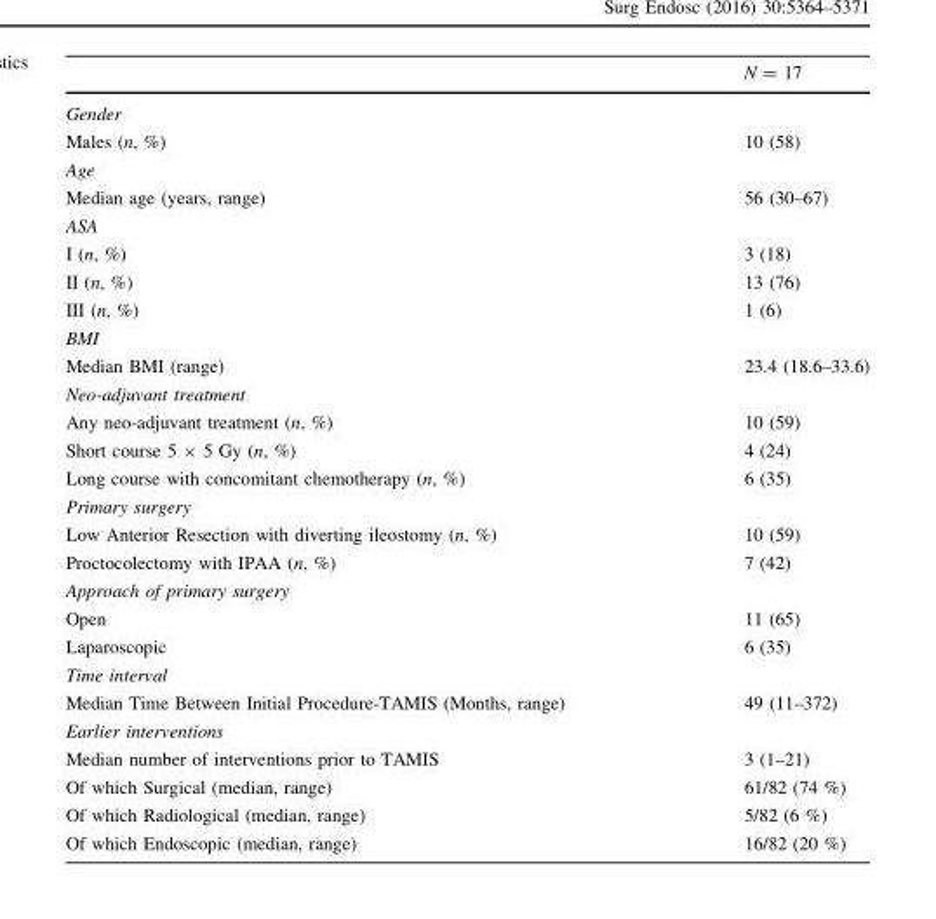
<table><thead><tr><td></td><td>N = 17</td></tr></thead><tbody><tr><td colspan="2">Gender</td></tr><tr><td>Males (n, %)</td><td>10 (58)</td></tr><tr><td colspan="2">Age</td></tr><tr><td>Median age (years, range)</td><td>56 (30–67)</td></tr><tr><td colspan="2">ASA</td></tr><tr><td>I (n, %)</td><td>3 (18)</td></tr><tr><td>II (n, %)</td><td>13 (76)</td></tr><tr><td>III (n, %)</td><td>1 (6)</td></tr><tr><td colspan="2">BMI</td></tr><tr><td>Median BMI (range)</td><td>23.4 (18.6–33.6)</td></tr><tr><td colspan="2">Neo-adjuvant treatment</td></tr><tr><td>Any neo-adjuvant treatment (n, %)</td><td>10 (59)</td></tr><tr><td>Short course 5 × 5 Gy (n, %)</td><td>4 (24)</td></tr><tr><td>Long course with concomitant chemotherapy (n, %)</td><td>6 (35)</td></tr><tr><td colspan="2">Primary surgery</td></tr><tr><td>Low Anterior Resection with diverting ileostomy (n, %)</td><td>10 (59)</td></tr><tr><td>Proctocolectomy with IPAA (n, %)</td><td>7 (42)</td></tr><tr><td colspan="2">Approach of primary surgery</td></tr><tr><td>Open</td><td>11 (65)</td></tr><tr><td>Laparoscopic</td><td>6 (35)</td></tr><tr><td colspan="2">Time interval</td></tr><tr><td>Median Time Between Initial Procedure-TAMIS (Months, range)</td><td>49 (11–372)</td></tr><tr><td colspan="2">Earlier interventions</td></tr><tr><td>Median number of interventions prior to TAMIS</td><td>3 (1–21)</td></tr><tr><td>Of which Surgical (median, range)</td><td>61/82 (74 %)</td></tr><tr><td>Of which Radiological (median, range)</td><td>5/82 (6 %)</td></tr><tr><td>Of which Endoscopic (median, range)</td><td>16/82 (20 %)</td></tr></tbody></table>